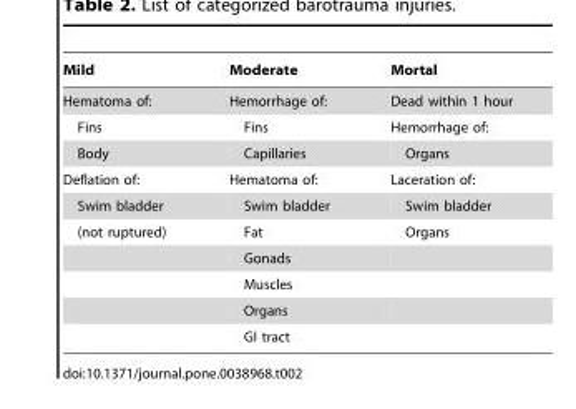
<table><thead><tr><td>Mild</td><td>Moderate</td><td>Mortal</td></tr></thead><tbody><tr><td>Hematoma of:</td><td>Hemorrhage of:</td><td>Dead within 1 hour</td></tr><tr><td>Fins</td><td>Fins</td><td>Hemorrhage of:</td></tr><tr><td>Body</td><td>Capillaries</td><td>Organs</td></tr><tr><td>Deflation of:</td><td>Hematoma of:</td><td>Laceration of:</td></tr><tr><td>Swim bladder</td><td>Swim bladder</td><td>Swim bladder</td></tr><tr><td rowspan="5">(not ruptured)</td><td>Fat</td><td>Organs</td></tr><tr><td>Gonads</td><td></td></tr><tr><td>Muscles</td><td></td></tr><tr><td>Organs</td><td></td></tr><tr><td>GI tract</td><td></td></tr></tbody></table>